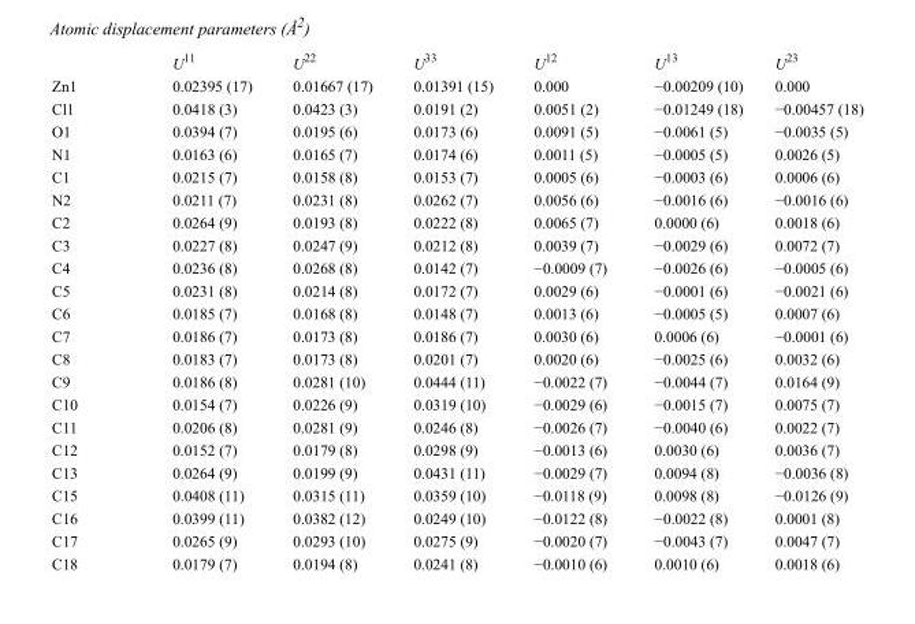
<table><thead><tr><td></td><td>U<sup>11</sup></td><td>U<sup>22</sup></td><td>U<sup>33</sup></td><td>U<sup>12</sup></td><td>U<sup>13</sup></td><td>U<sup>23</sup></td></tr></thead><tbody><tr><td>Zn1</td><td>0.02395 (17)</td><td>0.01667 (17)</td><td>0.01391 (15)</td><td>0.000</td><td>−0.00209 (10)</td><td>0.000</td></tr><tr><td>Cl1</td><td>0.0418 (3)</td><td>0.0423 (3)</td><td>0.0191 (2)</td><td>0.0051 (2)</td><td>−0.01249 (18)</td><td>−0.00457 (18)</td></tr><tr><td>O1</td><td>0.0394 (7)</td><td>0.0195 (6)</td><td>0.0173 (6)</td><td>0.0091 (5)</td><td>−0.0061 (5)</td><td>−0.0035 (5)</td></tr><tr><td>N1</td><td>0.0163 (6)</td><td>0.0165 (7)</td><td>0.0174 (6)</td><td>0.0011 (5)</td><td>−0.0005 (5)</td><td>0.0026 (5)</td></tr><tr><td>C1</td><td>0.0215 (7)</td><td>0.0158 (8)</td><td>0.0153 (7)</td><td>0.0005 (6)</td><td>−0.0003 (6)</td><td>0.0006 (6)</td></tr><tr><td>N2</td><td>0.0211 (7)</td><td>0.0231 (8)</td><td>0.0262 (7)</td><td>0.0056 (6)</td><td>−0.0016 (6)</td><td>−0.0016 (6)</td></tr><tr><td>C2</td><td>0.0264 (9)</td><td>0.0193 (8)</td><td>0.0222 (8)</td><td>0.0065 (7)</td><td>0.0000 (6)</td><td>0.0018 (6)</td></tr><tr><td>C3</td><td>0.0227 (8)</td><td>0.0247 (9)</td><td>0.0212 (8)</td><td>0.0039 (7)</td><td>−0.0029 (6)</td><td>0.0072 (7)</td></tr><tr><td>C4</td><td>0.0236 (8)</td><td>0.0268 (8)</td><td>0.0142 (7)</td><td>−0.0009 (7)</td><td>−0.0026 (6)</td><td>−0.0005 (6)</td></tr><tr><td>C5</td><td>0.0231 (8)</td><td>0.0214 (8)</td><td>0.0172 (7)</td><td>0.0029 (6)</td><td>−0.0001 (6)</td><td>−0.0021 (6)</td></tr><tr><td>C6</td><td>0.0185 (7)</td><td>0.0168 (8)</td><td>0.0148 (7)</td><td>0.0013 (6)</td><td>−0.0005 (5)</td><td>0.0007 (6)</td></tr><tr><td>C7</td><td>0.0186 (7)</td><td>0.0173 (8)</td><td>0.0186 (7)</td><td>0.0030 (6)</td><td>0.0006 (6)</td><td>−0.0001 (6)</td></tr><tr><td>C8</td><td>0.0183 (7)</td><td>0.0173 (8)</td><td>0.0201 (7)</td><td>0.0020 (6)</td><td>−0.0025 (6)</td><td>0.0032 (6)</td></tr><tr><td>C9</td><td>0.0186 (8)</td><td>0.0281 (10)</td><td>0.0444 (11)</td><td>−0.0022 (7)</td><td>−0.0044 (7)</td><td>0.0164 (9)</td></tr><tr><td>C10</td><td>0.0154 (7)</td><td>0.0226 (9)</td><td>0.0319 (10)</td><td>−0.0029 (6)</td><td>−0.0015 (7)</td><td>0.0075 (7)</td></tr><tr><td>C11</td><td>0.0206 (8)</td><td>0.0281 (9)</td><td>0.0246 (8)</td><td>−0.0026 (7)</td><td>−0.0040 (6)</td><td>0.0022 (7)</td></tr><tr><td>C12</td><td>0.0152 (7)</td><td>0.0179 (8)</td><td>0.0298 (9)</td><td>−0.0013 (6)</td><td>0.0030 (6)</td><td>0.0036 (7)</td></tr><tr><td>C13</td><td>0.0264 (9)</td><td>0.0199 (9)</td><td>0.0431 (11)</td><td>−0.0029 (7)</td><td>0.0094 (8)</td><td>−0.0036 (8)</td></tr><tr><td>C15</td><td>0.0408 (11)</td><td>0.0315 (11)</td><td>0.0359 (10)</td><td>−0.0118 (9)</td><td>0.0098 (8)</td><td>−0.0126 (9)</td></tr><tr><td>C16</td><td>0.0399 (11)</td><td>0.0382 (12)</td><td>0.0249 (10)</td><td>−0.0122 (8)</td><td>−0.0022 (8)</td><td>0.0001 (8)</td></tr><tr><td>C17</td><td>0.0265 (9)</td><td>0.0293 (10)</td><td>0.0275 (9)</td><td>−0.0020 (7)</td><td>−0.0043 (7)</td><td>0.0047 (7)</td></tr><tr><td>C18</td><td>0.0179 (7)</td><td>0.0194 (8)</td><td>0.0241 (8)</td><td>−0.0010 (6)</td><td>0.0010 (6)</td><td>0.0018 (6)</td></tr></tbody></table>